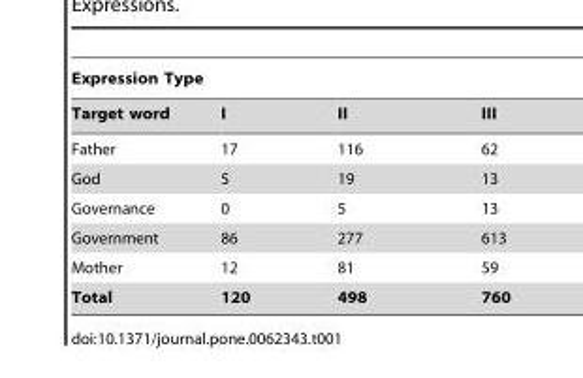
<table><thead><tr><td colspan="4">Expression Type</td></tr><tr><td>Target word</td><td>I</td><td>II</td><td>III</td></tr></thead><tbody><tr><td>Father</td><td>17</td><td>116</td><td>62</td></tr><tr><td>God</td><td>5</td><td>19</td><td>13</td></tr><tr><td>Governance</td><td>0</td><td>5</td><td>13</td></tr><tr><td>Government</td><td>86</td><td>277</td><td>613</td></tr><tr><td>Mother</td><td>12</td><td>81</td><td>59</td></tr><tr><td>Total</td><td>120</td><td>498</td><td>760</td></tr></tbody></table>